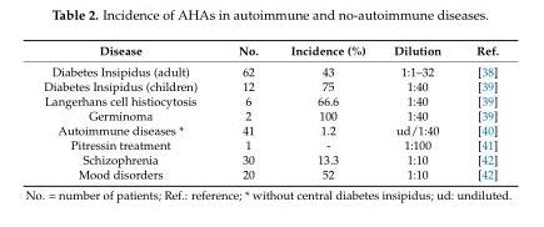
<table><thead><tr><td>Disease</td><td>No.</td><td>Incidence (%)</td><td>Dilution</td><td>Ref.</td></tr></thead><tbody><tr><td>Diabetes Insipidus (adult)</td><td>62</td><td>43</td><td>1:1–32</td><td>[38]</td></tr><tr><td>Diabetes Insipidus (children)</td><td>12</td><td>75</td><td>1:40</td><td>[39]</td></tr><tr><td>Langerhans cell histiocytosis</td><td>6</td><td>66.6</td><td>1:40</td><td>[39]</td></tr><tr><td>Germinoma</td><td>2</td><td>100</td><td>1:40</td><td>[39]</td></tr><tr><td>Autoimmune diseases *</td><td>41</td><td>1.2</td><td>ud/1:40</td><td>[40]</td></tr><tr><td>Pitressin treatment</td><td>1</td><td>-</td><td>1:100</td><td>[41]</td></tr><tr><td>Schizophrenia</td><td>30</td><td>13.3</td><td>1:10</td><td>[42]</td></tr><tr><td>Mood disorders</td><td>20</td><td>52</td><td>1:10</td><td>[42]</td></tr></tbody></table>